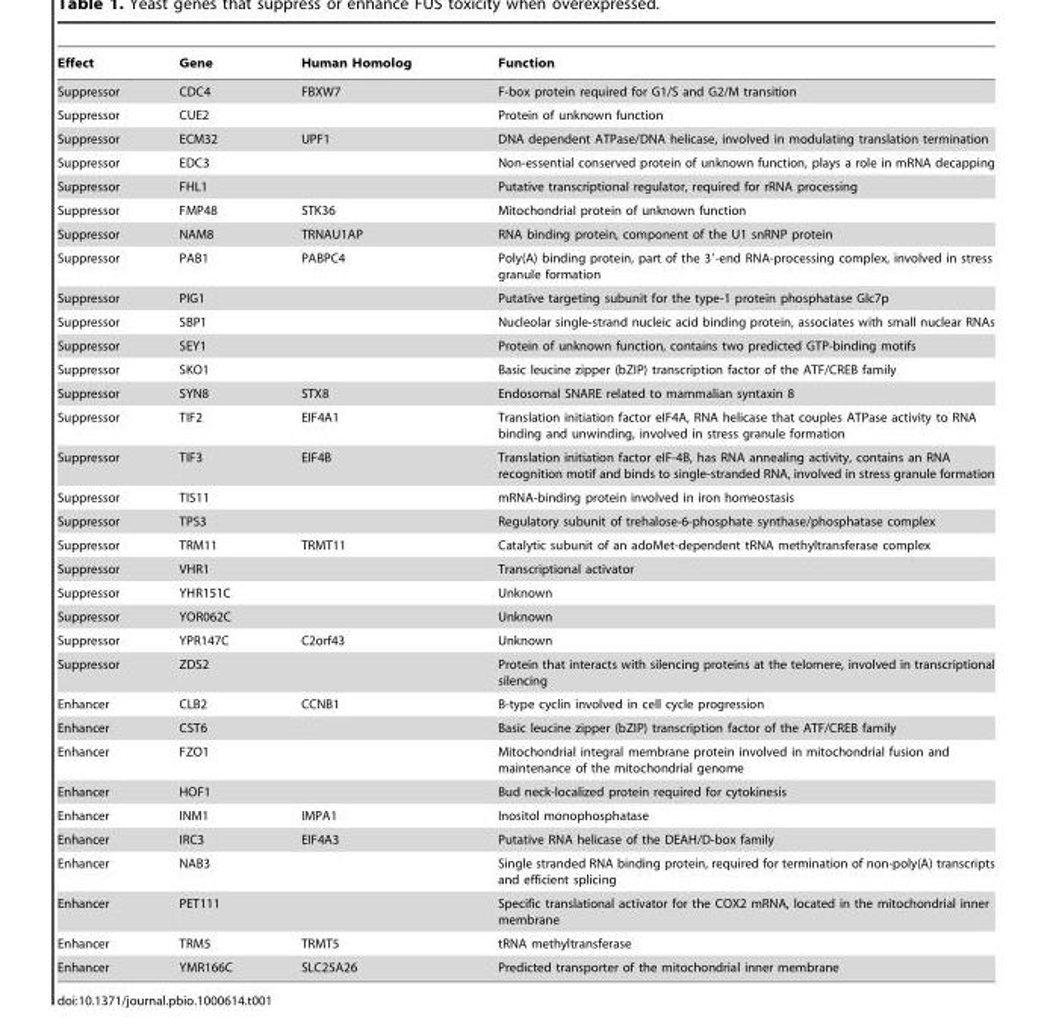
<table><thead><tr><td>Effect</td><td>Gene</td><td>Human Homolog</td><td>Function</td></tr></thead><tbody><tr><td>Suppressor</td><td>CDC4</td><td>FBXW7</td><td>F-box protein required for G1/S and G2/M transition</td></tr><tr><td>Suppressor</td><td>CUE2</td><td></td><td>Protein of unknown function</td></tr><tr><td>Suppressor</td><td>ECM32</td><td>UPF1</td><td>DNA dependent ATPase/DNA helicase, involved in modulating translation termination</td></tr><tr><td>Suppressor</td><td>EDC3</td><td></td><td>Non-essential conserved protein of unknown function, plays a role in mRNA decapping</td></tr><tr><td>Suppressor</td><td>FHL1</td><td></td><td>Putative transcriptional regulator, required for rRNA processing</td></tr><tr><td>Suppressor</td><td>FMP48</td><td>STK36</td><td>Mitochondrial protein of unknown function</td></tr><tr><td>Suppressor</td><td>NAM8</td><td>TRNAU1AP</td><td>RNA binding protein, component of the U1 snRNP protein</td></tr><tr><td>Suppressor</td><td>PAB1</td><td>PABPC4</td><td>Poly(A) binding protein, part of the 3′-end RNA-processing complex, involved in stress granule formation</td></tr><tr><td>Suppressor</td><td>PIG1</td><td></td><td>Putative targeting subunit for the type-1 protein phosphatase Glc7p</td></tr><tr><td>Suppressor</td><td>SBP1</td><td></td><td>Nucleolar single-strand nucleic acid binding protein, associates with small nuclear RNAs</td></tr><tr><td>Suppressor</td><td>SEY1</td><td></td><td>Protein of unknown function, contains two predicted GTP-binding motifs</td></tr><tr><td>Suppressor</td><td>SKO1</td><td></td><td>Basic leucine zipper (bZIP) transcription factor of the ATF/CREB family</td></tr><tr><td>Suppressor</td><td>SYN8</td><td>STX8</td><td>Endosomal SNARE related to mammalian syntaxin 8</td></tr><tr><td>Suppressor</td><td>TIF2</td><td>EIF4A1</td><td>Translation initiation factor eIF4A, RNA helicase that couples ATPase activity to RNA binding and unwinding, involved in stress granule formation</td></tr><tr><td>Suppressor</td><td>TIF3</td><td>EIF4B</td><td>Translation initiation factor eIF-4B, has RNA annealing activity, contains an RNA recognition motif and binds to single-stranded RNA, involved in stress granule formation</td></tr><tr><td>Suppressor</td><td>TIS11</td><td></td><td>mRNA-binding protein involved in iron homeostasis</td></tr><tr><td>Suppressor</td><td>TPS3</td><td></td><td>Regulatory subunit of trehalose-6-phosphate synthase/phosphatase complex</td></tr><tr><td>Suppressor</td><td>TRM11</td><td>TRMT11</td><td>Catalytic subunit of an adoMet-dependent tRNA methyltransferase complex</td></tr><tr><td>Suppressor</td><td>VHR1</td><td></td><td>Transcriptional activator</td></tr><tr><td>Suppressor</td><td>YHR151C</td><td></td><td>Unknown</td></tr><tr><td>Suppressor</td><td>YOR062C</td><td></td><td>Unknown</td></tr><tr><td>Suppressor</td><td>YPR147C</td><td>C2orf43</td><td>Unknown</td></tr><tr><td>Suppressor</td><td>ZDS2</td><td></td><td>Protein that interacts with silencing proteins at the telomere, involved in transcriptional silencing</td></tr><tr><td>Enhancer</td><td>CLB2</td><td>CCNB1</td><td>B-type cyclin involved in cell cycle progression</td></tr><tr><td>Enhancer</td><td>CST6</td><td></td><td>Basic leucine zipper (bZIP) transcription factor of the ATF/CREB family</td></tr><tr><td>Enhancer</td><td>FZO1</td><td></td><td>Mitochondrial integral membrane protein involved in mitochondrial fusion and maintenance of the mitochondrial genome</td></tr><tr><td>Enhancer</td><td>HOF1</td><td></td><td>Bud neck-localized protein required for cytokinesis</td></tr><tr><td>Enhancer</td><td>INM1</td><td>IMPA1</td><td>Inositol monophosphatase</td></tr><tr><td>Enhancer</td><td>IRC3</td><td>EIF4A3</td><td>Putative RNA helicase of the DEAH/D-box family</td></tr><tr><td>Enhancer</td><td>NAB3</td><td></td><td>Single stranded RNA binding protein, required for termination of non-poly(A) transcripts and efficient splicing</td></tr><tr><td>Enhancer</td><td>PET111</td><td></td><td>Specific translational activator for the COX2 mRNA, located in the mitochondrial inner membrane</td></tr><tr><td>Enhancer</td><td>TRM5</td><td>TRMT5</td><td>tRNA methyltransferase</td></tr><tr><td>Enhancer</td><td>YMR166C</td><td>SLC25A26</td><td>Predicted transporter of the mitochondrial inner membrane</td></tr></tbody></table>